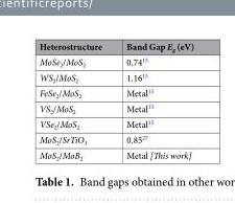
<table><thead><tr><td>Heterostructure</td><td>Band Gap E<sub>g</sub> (eV)</td></tr></thead><tbody><tr><td>MoSe<sub>2</sub>/MoS<sub>2</sub></td><td>0.74<sup>15</sup></td></tr><tr><td>WS<sub>2</sub>/MoS<sub>2</sub></td><td>1.16<sup>15</sup></td></tr><tr><td>FeSe<sub>2</sub>/MoS<sub>2</sub></td><td>Metal<sup>15</sup></td></tr><tr><td>VS<sub>2</sub>/MoS<sub>2</sub></td><td>Metal<sup>15</sup></td></tr><tr><td>VSe<sub>2</sub>/MoS<sub>2</sub></td><td>Metal<sup>15</sup></td></tr><tr><td>MoS<sub>2</sub>/SrTiO<sub>3</sub></td><td>0.85<sup>27</sup></td></tr><tr><td>MoS<sub>2</sub>/MoB<sub>2</sub></td><td>Metal [This work]</td></tr></tbody></table>